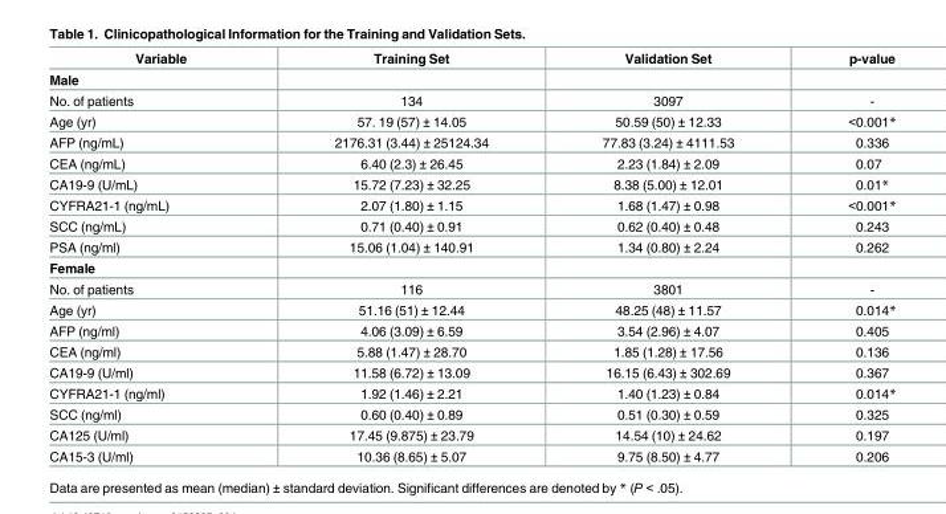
<table><thead><tr><td>Variable</td><td>Training Set</td><td>Validation Set</td><td>p-value</td></tr></thead><tbody><tr><td colspan="4">Male</td></tr><tr><td>No. of patients</td><td>134</td><td>3097</td><td>-</td></tr><tr><td>Age (yr)</td><td>57. 19 (57) ± 14.05</td><td>50.59 (50) ± 12.33</td><td>&lt;0.001*</td></tr><tr><td>AFP (ng/mL)</td><td>2176.31 (3.44) ± 25124.34</td><td>77.83 (3.24) ± 4111.53</td><td>0.336</td></tr><tr><td>CEA (ng/mL)</td><td>6.40 (2.3) ± 26.45</td><td>2.23 (1.84) ± 2.09</td><td>0.07</td></tr><tr><td>CA19-9 (U/mL)</td><td>15.72 (7.23) ± 32.25</td><td>8.38 (5.00) ± 12.01</td><td>0.01*</td></tr><tr><td>CYFRA21-1 (ng/mL)</td><td>2.07 (1.80) ± 1.15</td><td>1.68 (1.47) ± 0.98</td><td>&lt;0.001*</td></tr><tr><td>SCC (ng/mL)</td><td>0.71 (0.40) ± 0.91</td><td>0.62 (0.40) ± 0.48</td><td>0.243</td></tr><tr><td>PSA (ng/ml)</td><td>15.06 (1.04) ± 140.91</td><td>1.34 (0.80) ± 2.24</td><td>0.262</td></tr><tr><td colspan="4">Female</td></tr><tr><td>No. of patients</td><td>116</td><td>3801</td><td>-</td></tr><tr><td>Age (yr)</td><td>51.16 (51) ± 12.44</td><td>48.25 (48) ± 11.57</td><td>0.014*</td></tr><tr><td>AFP (ng/ml)</td><td>4.06 (3.09) ± 6.59</td><td>3.54 (2.96) ± 4.07</td><td>0.405</td></tr><tr><td>CEA (ng/ml)</td><td>5.88 (1.47) ± 28.70</td><td>1.85 (1.28) ± 17.56</td><td>0.136</td></tr><tr><td>CA19-9 (U/ml)</td><td>11.58 (6.72) ± 13.09</td><td>16.15 (6.43) ± 302.69</td><td>0.367</td></tr><tr><td>CYFRA21-1 (ng/ml)</td><td>1.92 (1.46) ± 2.21</td><td>1.40 (1.23) ± 0.84</td><td>0.014*</td></tr><tr><td>SCC (ng/ml)</td><td>0.60 (0.40) ± 0.89</td><td>0.51 (0.30) ± 0.59</td><td>0.325</td></tr><tr><td>CA125 (U/ml)</td><td>17.45 (9.875) ± 23.79</td><td>14.54 (10) ± 24.62</td><td>0.197</td></tr><tr><td>CA15-3 (U/ml)</td><td>10.36 (8.65) ± 5.07</td><td>9.75 (8.50) ± 4.77</td><td>0.206</td></tr></tbody></table>